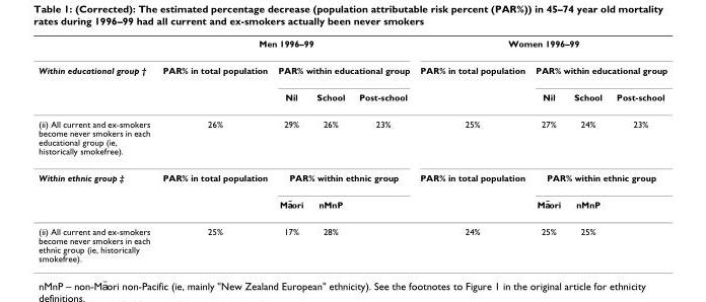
<table><thead><tr><td rowspan="3">Within educational group †</td><td colspan="4">Men 1996–99</td><td colspan="4">Women 1996–99</td></tr><tr><td rowspan="2">PAR% in total population</td><td colspan="3">PAR% within educational group</td><td rowspan="2">PAR% in total population</td><td colspan="3">PAR% within educational group</td></tr><tr><td>Nil</td><td>School</td><td>Post-school</td><td>Nil</td><td>School</td><td>Post-school</td></tr></thead><tbody><tr><td>(ii) All current and ex-smokers become never smokers in each educational group (ie, historically smokefree).</td><td>26%</td><td>29%</td><td>26%</td><td>23%</td><td>25%</td><td>27%</td><td>24%</td><td>23%</td></tr><tr><td rowspan="2">Within ethnic group ‡</td><td>PAR% in total population</td><td colspan="3">PAR% within ethnic group</td><td>PAR% in total population</td><td colspan="3">PAR% within ethnic group</td></tr><tr><td></td><td>Ma¯ori</td><td>nMnP</td><td></td><td></td><td>Ma¯ori</td><td>nMnP</td><td></td></tr><tr><td>(ii) All current and ex-smokers become never smokers in each ethnic group (ie, historically smokefree).</td><td>25%</td><td>17%</td><td>28%</td><td></td><td>24%</td><td>25%</td><td>25%</td><td></td></tr></tbody></table>